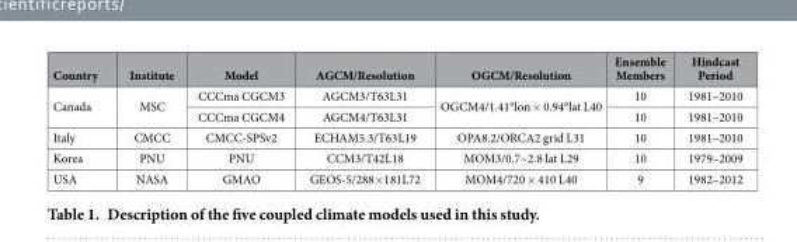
<table><thead><tr><td>Country</td><td>Institute</td><td>Model</td><td>AGCM/Resolution</td><td>OGCM/Resolution</td><td>Ensemble Members</td><td>Hindcast Period</td></tr></thead><tbody><tr><td rowspan="2">Canada</td><td rowspan="2">MSC</td><td>CCCma CGCM3</td><td>AGCM3/T63L31</td><td rowspan="2">OGCM4/1.41°lon × 0.94°lat L40</td><td>10</td><td>1981–2010</td></tr><tr><td>CCCma CGCM4</td><td>AGCM4/T63L31</td><td>10</td><td>1981–2010</td></tr><tr><td>Italy</td><td>CMCC</td><td>CMCC-SPSv2</td><td>ECHAM5.3/T63L19</td><td>OPA8.2/ORCA2 grid L31</td><td>10</td><td>1981–2010</td></tr><tr><td>Korea</td><td>PNU</td><td>PNU</td><td>CCM3/T42L18</td><td>MOM3/0.7~2.8 lat L29</td><td>10</td><td>1979–2009</td></tr><tr><td>USA</td><td>NASA</td><td>GMAO</td><td>GEOS-5/288× 181L72</td><td>MOM4/720 × 410 L40</td><td>9</td><td>1982–2012</td></tr></tbody></table>